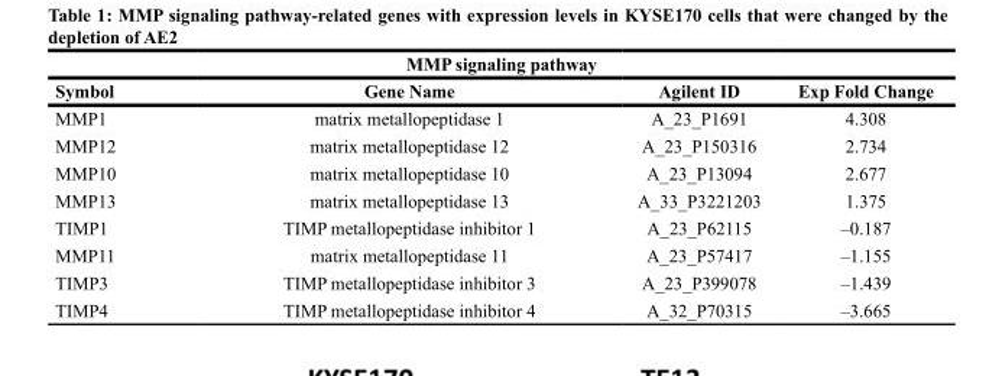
<table><thead><tr><td colspan="4">MMP signaling pathway</td></tr><tr><td>Symbol</td><td>Gene Name</td><td>Agilent ID</td><td>Exp Fold Change</td></tr></thead><tbody><tr><td>MMP1</td><td>matrix metallopeptidase 1</td><td>A_23_P1691</td><td>4.308</td></tr><tr><td>MMP12</td><td>matrix metallopeptidase 12</td><td>A_23_P150316</td><td>2.734</td></tr><tr><td>MMP10</td><td>matrix metallopeptidase 10</td><td>A_23_P13094</td><td>2.677</td></tr><tr><td>MMP13</td><td>matrix metallopeptidase 13</td><td>A_33_P3221203</td><td>1.375</td></tr><tr><td>TIMP1</td><td>TIMP metallopeptidase inhibitor 1</td><td>A_23_P62115</td><td>–0.187</td></tr><tr><td>MMP11</td><td>matrix metallopeptidase 11</td><td>A_23_P57417</td><td>–1.155</td></tr><tr><td>TIMP3</td><td>TIMP metallopeptidase inhibitor 3</td><td>A_23_P399078</td><td>–1.439</td></tr><tr><td>TIMP4</td><td>TIMP metallopeptidase inhibitor 4</td><td>A_32_P70315</td><td>–3.665</td></tr></tbody></table>